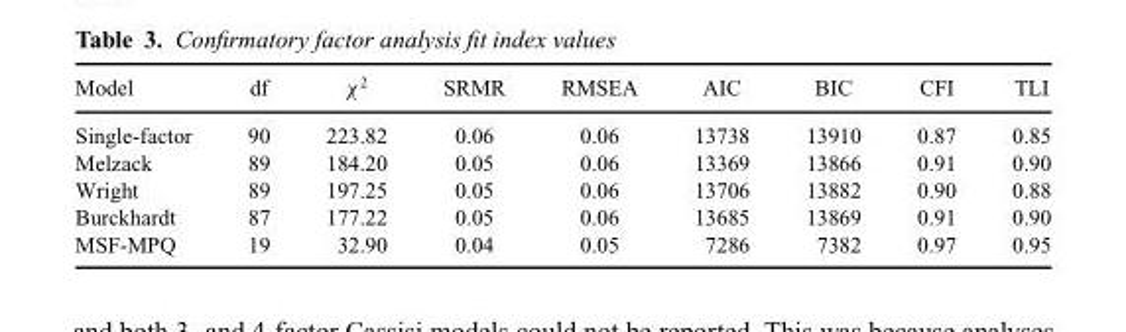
<table><thead><tr><td>Model</td><td>df</td><td>χ<sup>2</sup></td><td>SRMR</td><td>RMSEA</td><td>AIC</td><td>BIC</td><td>CFI</td><td>TLI</td></tr></thead><tbody><tr><td>Single-factor</td><td>90</td><td>223.82</td><td>0.06</td><td>0.06</td><td>13738</td><td>13910</td><td>0.87</td><td>0.85</td></tr><tr><td>Melzack</td><td>89</td><td>184.20</td><td>0.05</td><td>0.06</td><td>13369</td><td>13866</td><td>0.91</td><td>0.90</td></tr><tr><td>Wright</td><td>89</td><td>197.25</td><td>0.05</td><td>0.06</td><td>13706</td><td>13882</td><td>0.90</td><td>0.88</td></tr><tr><td>Burckhardt</td><td>87</td><td>177.22</td><td>0.05</td><td>0.06</td><td>13685</td><td>13869</td><td>0.91</td><td>0.90</td></tr><tr><td>MSF-MPQ</td><td>19</td><td>32.90</td><td>0.04</td><td>0.05</td><td>7286</td><td>7382</td><td>0.97</td><td>0.95</td></tr></tbody></table>